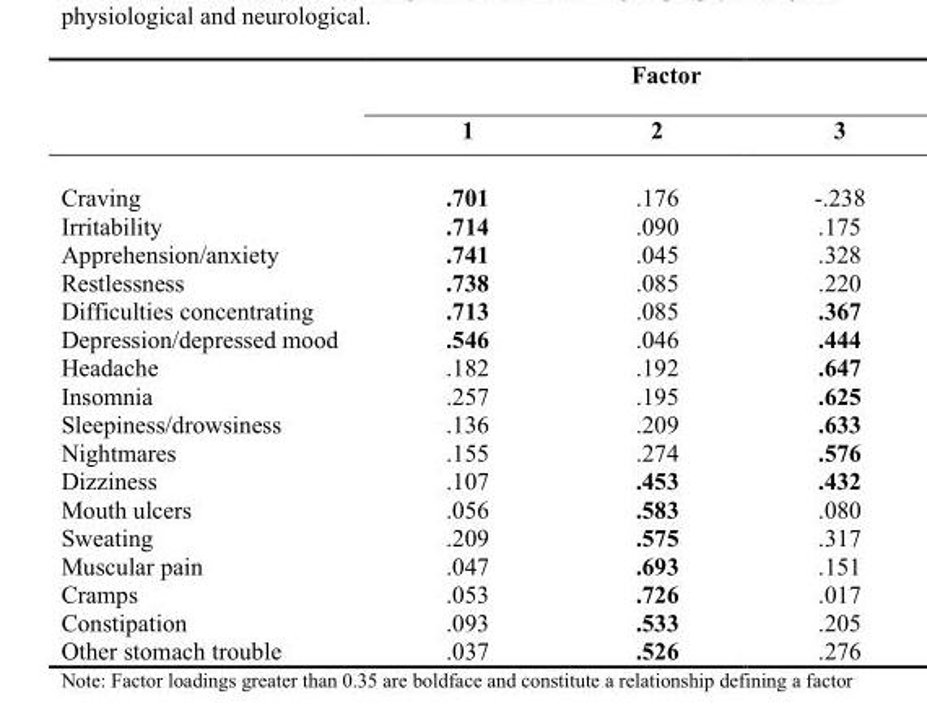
<table><thead><tr><td rowspan="2"></td><td colspan="3">Factor</td></tr><tr><td>1</td><td>2</td><td>3</td></tr></thead><tbody><tr><td>Craving</td><td>.701</td><td>.176</td><td>-.238</td></tr><tr><td>Irritability</td><td>.714</td><td>.090</td><td>.175</td></tr><tr><td>Apprehension/anxiety</td><td>.741</td><td>.045</td><td>.328</td></tr><tr><td>Restlessness</td><td>.738</td><td>.085</td><td>.220</td></tr><tr><td>Difficulties concentrating</td><td>.713</td><td>.085</td><td>.367</td></tr><tr><td>Depression/depressed mood</td><td>.546</td><td>.046</td><td>.444</td></tr><tr><td>Headache</td><td>.182</td><td>.192</td><td>.647</td></tr><tr><td>Insomnia</td><td>.257</td><td>.195</td><td>.625</td></tr><tr><td>Sleepiness/drowsiness</td><td>.136</td><td>.209</td><td>.633</td></tr><tr><td>Nightmares</td><td>.155</td><td>.274</td><td>.576</td></tr><tr><td>Dizziness</td><td>.107</td><td>.453</td><td>.432</td></tr><tr><td>Mouth ulcers</td><td>.056</td><td>.583</td><td>.080</td></tr><tr><td>Sweating</td><td>.209</td><td>.575</td><td>.317</td></tr><tr><td>Muscular pain</td><td>.047</td><td>.693</td><td>.151</td></tr><tr><td>Cramps</td><td>.053</td><td>.726</td><td>.017</td></tr><tr><td>Constipation</td><td>.093</td><td>.533</td><td>.205</td></tr><tr><td>Other stomach trouble</td><td>.037</td><td>.526</td><td>.276</td></tr></tbody></table>